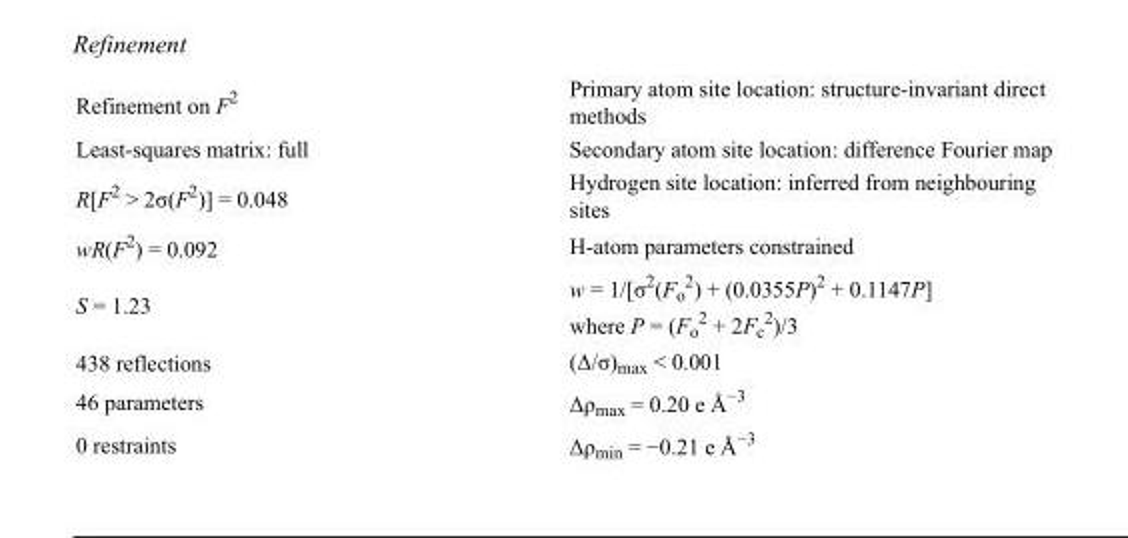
<table><tbody><tr><td>Refinement on F<sup>2</sup></td><td>Primary atom site location: structure-invariant direct methods</td></tr><tr><td>Least-squares matrix: full</td><td>Secondary atom site location: difference Fourier map</td></tr><tr><td>R[F<sup>2</sup> &gt; 2σ(F<sup>2</sup>)] = 0.048</td><td>Hydrogen site location: inferred from neighbouring sites</td></tr><tr><td>wR(F<sup>2</sup>) = 0.092</td><td>H-atom parameters constrained</td></tr><tr><td>S = 1.23</td><td>w = 1/[σ<sup>2</sup>(F<sub>o</sub> <sup>2</sup>) + (0.0355P)<sup>2</sup> + 0.1147P] where P = (F<sub>o</sub> <sup>2</sup> + 2F<sub>c</sub> <sup>2</sup>)/3</td></tr><tr><td>438 reflections</td><td>(Δ/σ)<sub>max</sub> &lt; 0.001</td></tr><tr><td>46 parameters</td><td>Δρ<sub>max</sub> = 0.20 e Å<sup>−3</sup></td></tr><tr><td>0 restraints</td><td>Δρ<sub>min</sub> = −0.21 e Å<sup>−3</sup></td></tr></tbody></table>